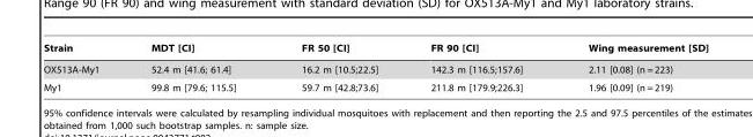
<table><thead><tr><td>Strain</td><td>MDT [CI]</td><td>FR 50 [CI]</td><td>FR 90 [CI]</td><td>Wing measurement [SD]</td></tr></thead><tbody><tr><td>OX513A-My1</td><td>52.4 m [41.6; 61.4]</td><td>16.2 m [10.5;22.5]</td><td>142.3 m [116.5;157.6]</td><td>2.11 [0.08] (n = 223)</td></tr><tr><td>My1</td><td>99.8 m [79.6; 115.5]</td><td>59.7 m [42.8;73.6]</td><td>211.8 m [179.9;226.3]</td><td>1.96 [0.09] (n = 219)</td></tr></tbody></table>